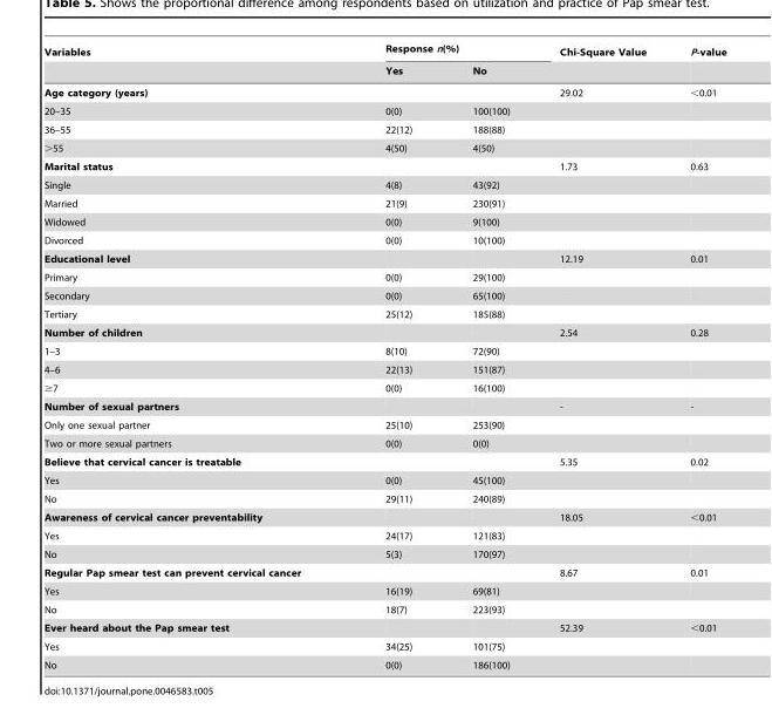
<table><thead><tr><td rowspan="2">Variables</td><td colspan="2">Response n(%)</td><td rowspan="2">Chi-Square Value</td><td rowspan="2">P-value</td></tr><tr><td>Yes</td><td>No</td></tr></thead><tbody><tr><td>Age category (years)</td><td></td><td></td><td>29.02</td><td>&lt;0.01</td></tr><tr><td>20–35</td><td>0(0)</td><td>100(100)</td><td></td><td></td></tr><tr><td>36–55</td><td>22(12)</td><td>188(88)</td><td></td><td></td></tr><tr><td>&gt;55</td><td>4(50)</td><td>4(50)</td><td></td><td></td></tr><tr><td>Marital status</td><td></td><td></td><td>1.73</td><td>0.63</td></tr><tr><td>Single</td><td>4(8)</td><td>43(92)</td><td></td><td></td></tr><tr><td>Married</td><td>21(9)</td><td>230(91)</td><td></td><td></td></tr><tr><td>Widowed</td><td>0(0)</td><td>9(100)</td><td></td><td></td></tr><tr><td>Divorced</td><td>0(0)</td><td>10(100)</td><td></td><td></td></tr><tr><td>Educational level</td><td></td><td></td><td>12.19</td><td>0.01</td></tr><tr><td>Primary</td><td>0(0)</td><td>29(100)</td><td></td><td></td></tr><tr><td>Secondary</td><td>0(0)</td><td>65(100)</td><td></td><td></td></tr><tr><td>Tertiary</td><td>25(12)</td><td>185(88)</td><td></td><td></td></tr><tr><td>Number of children</td><td></td><td></td><td>2.54</td><td>0.28</td></tr><tr><td>1–3</td><td>8(10)</td><td>72(90)</td><td></td><td></td></tr><tr><td>4–6</td><td>22(13)</td><td>151(87)</td><td></td><td></td></tr><tr><td>≥7</td><td>0(0)</td><td>16(100)</td><td></td><td></td></tr><tr><td>Number of sexual partners</td><td></td><td></td><td>-</td><td>-</td></tr><tr><td>Only one sexual partner</td><td>25(10)</td><td>253(90)</td><td></td><td></td></tr><tr><td>Two or more sexual partners</td><td>0(0)</td><td>0(0)</td><td></td><td></td></tr><tr><td>Believe that cervical cancer is treatable</td><td></td><td></td><td>5.35</td><td>0.02</td></tr><tr><td>Yes</td><td>0(0)</td><td>45(100)</td><td></td><td></td></tr><tr><td>No</td><td>29(11)</td><td>240(89)</td><td></td><td></td></tr><tr><td>Awareness of cervical cancer preventability</td><td></td><td></td><td>18.05</td><td>&lt;0.01</td></tr><tr><td>Yes</td><td>24(17)</td><td>121(83)</td><td></td><td></td></tr><tr><td>No</td><td>5(3)</td><td>170(97)</td><td></td><td></td></tr><tr><td>Regular Pap smear test can prevent cervical cancer</td><td></td><td></td><td>8.67</td><td>0.01</td></tr><tr><td>Yes</td><td>16(19)</td><td>69(81)</td><td></td><td></td></tr><tr><td>No</td><td>18(7)</td><td>223(93)</td><td></td><td></td></tr><tr><td>Ever heard about the Pap smear test</td><td></td><td></td><td>52.39</td><td>&lt;0.01</td></tr><tr><td>Yes</td><td>34(25)</td><td>101(75)</td><td></td><td></td></tr><tr><td>No</td><td>0(0)</td><td>186(100)</td><td></td><td></td></tr></tbody></table>